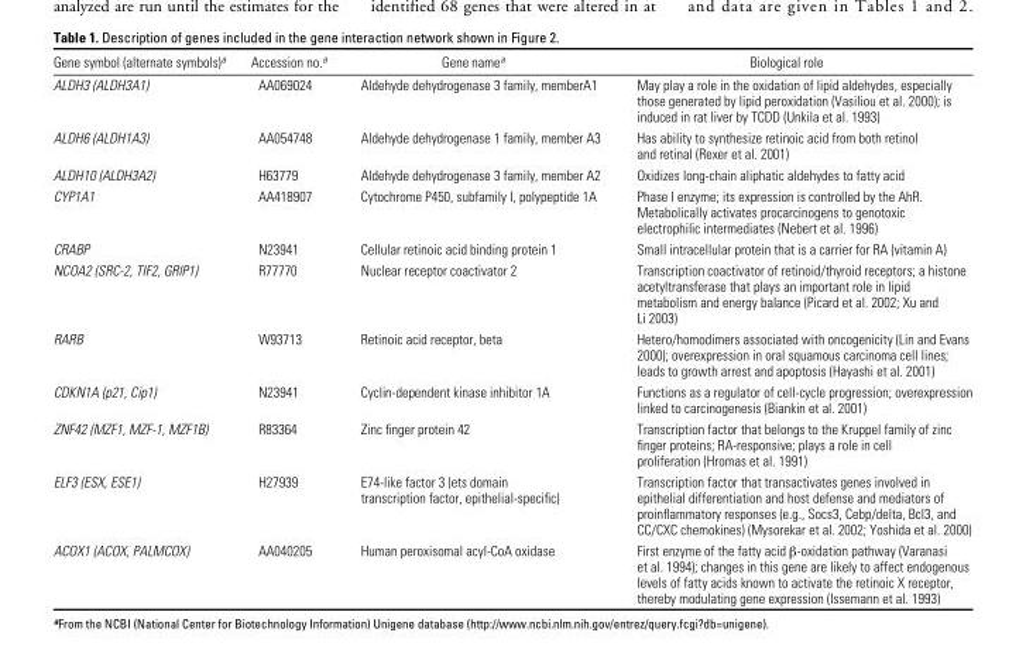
<table><thead><tr><td>Gene symbol (alternate symbols)<sup>a</sup></td><td>Accession no.<sup>a</sup></td><td>Gene name<sup>a</sup></td><td>Biological role</td></tr></thead><tbody><tr><td>ALDH3 (ALDH3A1)</td><td>AA069024</td><td>Aldehyde dehydrogenase 3 family, memberA1</td><td>May play a role in the oxidation of lipid aldehydes, especially those generated by lipid peroxidation (Vasiliou et al. 2000); is induced in rat liver by TCDD (Unkila et al. 1993)</td></tr><tr><td>ALDH6 (ALDH1A3)</td><td>AA054748</td><td>Aldehyde dehydrogenase 1 family, member A3</td><td>Has ability to synthesize retinoic acid from both retinol and retinal (Rexer et al. 2001)</td></tr><tr><td>ALDH10 (ALDH3A2)</td><td>H63779</td><td>Aldehyde dehydrogenase 3 family, member A2</td><td>Oxidizes long-chain aliphatic aldehydes to fatty acid</td></tr><tr><td>CYP1A1</td><td>AA418907</td><td>Cytochrome P450, subfamily I, polypeptide 1A</td><td>Phase I enzyme; its expression is controlled by the AhR. Metabolically activates procarcinogens to genotoxic electrophilic intermediates (Nebert et al. 1996)</td></tr><tr><td>CRABP</td><td>N23941</td><td>Cellular retinoic acid binding protein 1</td><td>Small intracellular protein that is a carrier for RA (vitamin A)</td></tr><tr><td>NCOA2 (SRC-2, TIF2, GRIP1)</td><td>R77770</td><td>Nuclear receptor coactivator 2</td><td>Transcription coactivator of retinoid/thyroid receptors; a histone acetyltransferase that plays an important role in lipid metabolism and energy balance (Picard et al. 2002; Xu and Li 2003)</td></tr><tr><td>RARB</td><td>W93713</td><td>Retinoic acid receptor, beta</td><td>Hetero/homodimers associated with oncogenicity (Lin and Evans 2000); overexpression in oral squamous carcinoma cell lines; leads to growth arrest and apoptosis (Hayashi et al. 2001)</td></tr><tr><td>CDKN1A (p21, Cip1)</td><td>N23941</td><td>Cyclin-dependent kinase inhibitor 1A</td><td>Functions as a regulator of cell-cycle progression; overexpression linked to carcinogenesis (Biankin et al. 2001)</td></tr><tr><td>ZNF42 (MZF1, MZF-1, MZF1B)</td><td>R83364</td><td>Zinc finger protein 42</td><td>Transcription factor that belongs to the Kruppel family of zinc finger proteins; RA-responsive; plays a role in cell proliferation (Hromas et al. 1991)</td></tr><tr><td>ELF3 (ESX, ESE1)</td><td>H27939</td><td>E74-like factor 3 (ets domain transcription factor, epithelial-specific)</td><td>Transcription factor that transactivates genes involved in epithelial differentiation and host defense and mediators of proinflammatory responses (e.g., Socs3, Cebp/delta, Bcl3, and CC/CXC chemokines) (Mysorekar et al. 2002; Yoshida et al. 2000)</td></tr><tr><td>ACOX1 (ACOX, PALMCOX)</td><td>AA040205</td><td>Human peroxisomal acyl-CoA oxidase</td><td>First enzyme of the fatty acid β-oxidation pathway (Varanasi et al. 1994); changes in this gene are likely to affect endogenous levels of fatty acids known to activate the retinoic X receptor, thereby modulating gene expression (Issemann et al. 1993)</td></tr></tbody></table>